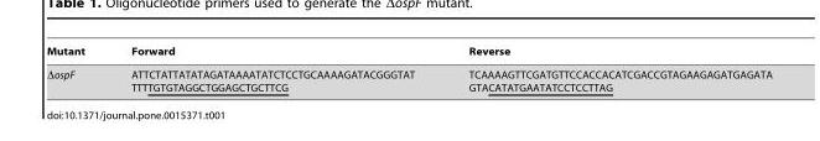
<table><thead><tr><td>Mutant</td><td>Forward</td><td>Reverse</td></tr></thead><tbody><tr><td>ΔospF</td><td>ATTCTATTATATAGATAAAATATCTCCTGCAAAAGATACGGGTAT TTTTGTGTAGGCTGGAGCTGCTTCG</td><td>TCAAAAGTTCGATGTTCCACCACATCGACCGTAGAAGAGATGAGATA GTACATATGAATATCCTCCTTAG</td></tr></tbody></table>